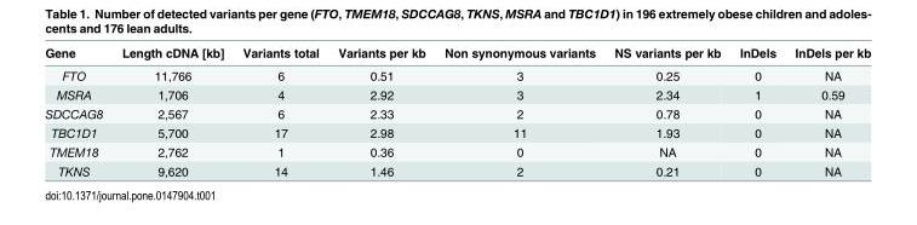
<table><thead><tr><td>Gene</td><td>Length cDNA [kb]</td><td>Variants total</td><td>Variants per kb</td><td>Non synonymous variants</td><td>NS variants per kb</td><td>InDels</td><td>InDels per kb</td></tr></thead><tbody><tr><td>FTO</td><td>11,766</td><td>6</td><td>0.51</td><td>3</td><td>0.25</td><td>0</td><td>NA</td></tr><tr><td>MSRA</td><td>1,706</td><td>4</td><td>2.92</td><td>3</td><td>2.34</td><td>1</td><td>0.59</td></tr><tr><td>SDCCAG8</td><td>2,567</td><td>6</td><td>2.33</td><td>2</td><td>0.78</td><td>0</td><td>NA</td></tr><tr><td>TBC1D1</td><td>5,700</td><td>17</td><td>2.98</td><td>11</td><td>1.93</td><td>0</td><td>NA</td></tr><tr><td>TMEM18</td><td>2,762</td><td>1</td><td>0.36</td><td>0</td><td>NA</td><td>0</td><td>NA</td></tr><tr><td>TKNS</td><td>9,620</td><td>14</td><td>1.46</td><td>2</td><td>0.21</td><td>0</td><td>NA</td></tr></tbody></table>